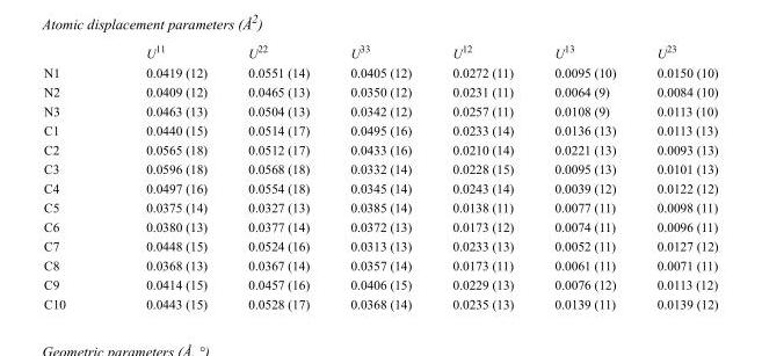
<table><thead><tr><td></td><td>U<sup>11</sup></td><td>U<sup>22</sup></td><td>U<sup>33</sup></td><td>U<sup>12</sup></td><td>U<sup>13</sup></td><td>U<sup>23</sup></td></tr></thead><tbody><tr><td>N1</td><td>0.0419 (12)</td><td>0.0551 (14)</td><td>0.0405 (12)</td><td>0.0272 (11)</td><td>0.0095 (10)</td><td>0.0150 (10)</td></tr><tr><td>N2</td><td>0.0409 (12)</td><td>0.0465 (13)</td><td>0.0350 (12)</td><td>0.0231 (11)</td><td>0.0064 (9)</td><td>0.0084 (10)</td></tr><tr><td>N3</td><td>0.0463 (13)</td><td>0.0504 (13)</td><td>0.0342 (12)</td><td>0.0257 (11)</td><td>0.0108 (9)</td><td>0.0113 (10)</td></tr><tr><td>C1</td><td>0.0440 (15)</td><td>0.0514 (17)</td><td>0.0495 (16)</td><td>0.0233 (14)</td><td>0.0136 (13)</td><td>0.0113 (13)</td></tr><tr><td>C2</td><td>0.0565 (18)</td><td>0.0512 (17)</td><td>0.0433 (16)</td><td>0.0210 (14)</td><td>0.0221 (13)</td><td>0.0093 (13)</td></tr><tr><td>C3</td><td>0.0596 (18)</td><td>0.0568 (18)</td><td>0.0332 (14)</td><td>0.0228 (15)</td><td>0.0095 (13)</td><td>0.0101 (13)</td></tr><tr><td>C4</td><td>0.0497 (16)</td><td>0.0554 (18)</td><td>0.0345 (14)</td><td>0.0243 (14)</td><td>0.0039 (12)</td><td>0.0122 (12)</td></tr><tr><td>C5</td><td>0.0375 (14)</td><td>0.0327 (13)</td><td>0.0385 (14)</td><td>0.0138 (11)</td><td>0.0077 (11)</td><td>0.0098 (11)</td></tr><tr><td>C6</td><td>0.0380 (13)</td><td>0.0377 (14)</td><td>0.0372 (13)</td><td>0.0173 (12)</td><td>0.0074 (11)</td><td>0.0096 (11)</td></tr><tr><td>C7</td><td>0.0448 (15)</td><td>0.0524 (16)</td><td>0.0313 (13)</td><td>0.0233 (13)</td><td>0.0052 (11)</td><td>0.0127 (12)</td></tr><tr><td>C8</td><td>0.0368 (13)</td><td>0.0367 (14)</td><td>0.0357 (14)</td><td>0.0173 (11)</td><td>0.0061 (11)</td><td>0.0071 (11)</td></tr><tr><td>C9</td><td>0.0414 (15)</td><td>0.0457 (16)</td><td>0.0406 (15)</td><td>0.0229 (13)</td><td>0.0076 (12)</td><td>0.0113 (12)</td></tr><tr><td>C10</td><td>0.0443 (15)</td><td>0.0528 (17)</td><td>0.0368 (14)</td><td>0.0235 (13)</td><td>0.0139 (11)</td><td>0.0139 (12)</td></tr></tbody></table>